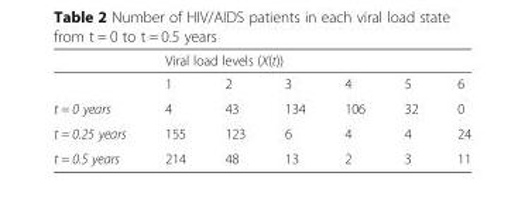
<table><thead><tr><td rowspan="2"></td><td colspan="6">Viral load levels (X(t))</td></tr><tr><td>1</td><td>2</td><td>3</td><td>4</td><td>5</td><td>6</td></tr></thead><tbody><tr><td>t = 0 years</td><td>4</td><td>43</td><td>134</td><td>106</td><td>32</td><td>0</td></tr><tr><td>t = 0.25 years</td><td>155</td><td>123</td><td>6</td><td>4</td><td>4</td><td>24</td></tr><tr><td>t = 0.5 years</td><td>214</td><td>48</td><td>13</td><td>2</td><td>3</td><td>11</td></tr></tbody></table>